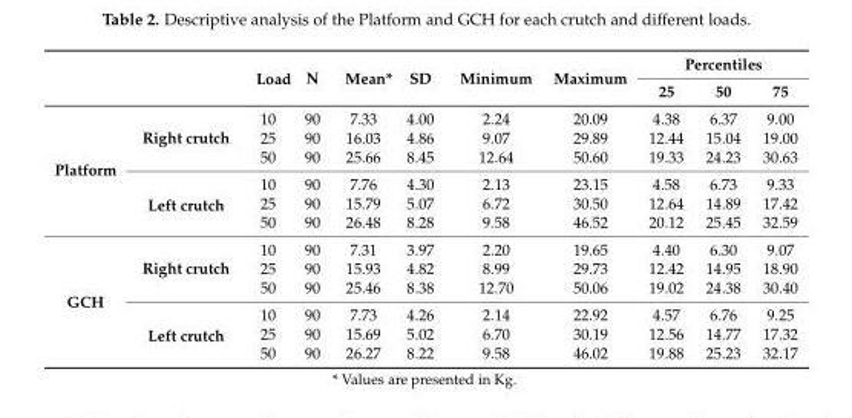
<table><thead><tr><td rowspan="2"></td><td rowspan="2"></td><td rowspan="2">Load</td><td rowspan="2">N</td><td rowspan="2">Mean*</td><td rowspan="2">SD</td><td rowspan="2">Minimum</td><td rowspan="2">Maximum</td><td colspan="3">Percentiles</td></tr><tr><td>25</td><td>50</td><td>75</td></tr></thead><tbody><tr><td rowspan="6">Platform</td><td rowspan="3">Right crutch</td><td>10</td><td>90</td><td>7.33</td><td>4.00</td><td>2.24</td><td>20.09</td><td>4.38</td><td>6.37</td><td>9.00</td></tr><tr><td>25</td><td>90</td><td>16.03</td><td>4.86</td><td>9.07</td><td>29.89</td><td>12.44</td><td>15.04</td><td>19.00</td></tr><tr><td>50</td><td>90</td><td>25.66</td><td>8.45</td><td>12.64</td><td>50.60</td><td>19.33</td><td>24.23</td><td>30.63</td></tr><tr><td rowspan="3">Left crutch</td><td>10</td><td>90</td><td>7.76</td><td>4.30</td><td>2.13</td><td>23.15</td><td>4.58</td><td>6.73</td><td>9.33</td></tr><tr><td>25</td><td>90</td><td>15.79</td><td>5.07</td><td>6.72</td><td>30.50</td><td>12.64</td><td>14.89</td><td>17.42</td></tr><tr><td>50</td><td>90</td><td>26.48</td><td>8.28</td><td>9.58</td><td>46.52</td><td>20.12</td><td>25.45</td><td>32.59</td></tr><tr><td rowspan="6">GCH</td><td rowspan="3">Right crutch</td><td>10</td><td>90</td><td>7.31</td><td>3.97</td><td>2.20</td><td>19.65</td><td>4.40</td><td>6.30</td><td>9.07</td></tr><tr><td>25</td><td>90</td><td>15.93</td><td>4.82</td><td>8.99</td><td>29.73</td><td>12.42</td><td>14.95</td><td>18.90</td></tr><tr><td>50</td><td>90</td><td>25.46</td><td>8.38</td><td>12.70</td><td>50.06</td><td>19.02</td><td>24.38</td><td>30.40</td></tr><tr><td rowspan="3">Left crutch</td><td>10</td><td>90</td><td>7.73</td><td>4.26</td><td>2.14</td><td>22.92</td><td>4.57</td><td>6.76</td><td>9.25</td></tr><tr><td>25</td><td>90</td><td>15.69</td><td>5.02</td><td>6.70</td><td>30.19</td><td>12.56</td><td>14.77</td><td>17.32</td></tr><tr><td>50</td><td>90</td><td>26.27</td><td>8.22</td><td>9.58</td><td>46.02</td><td>19.88</td><td>25.23</td><td>32.17</td></tr></tbody></table>